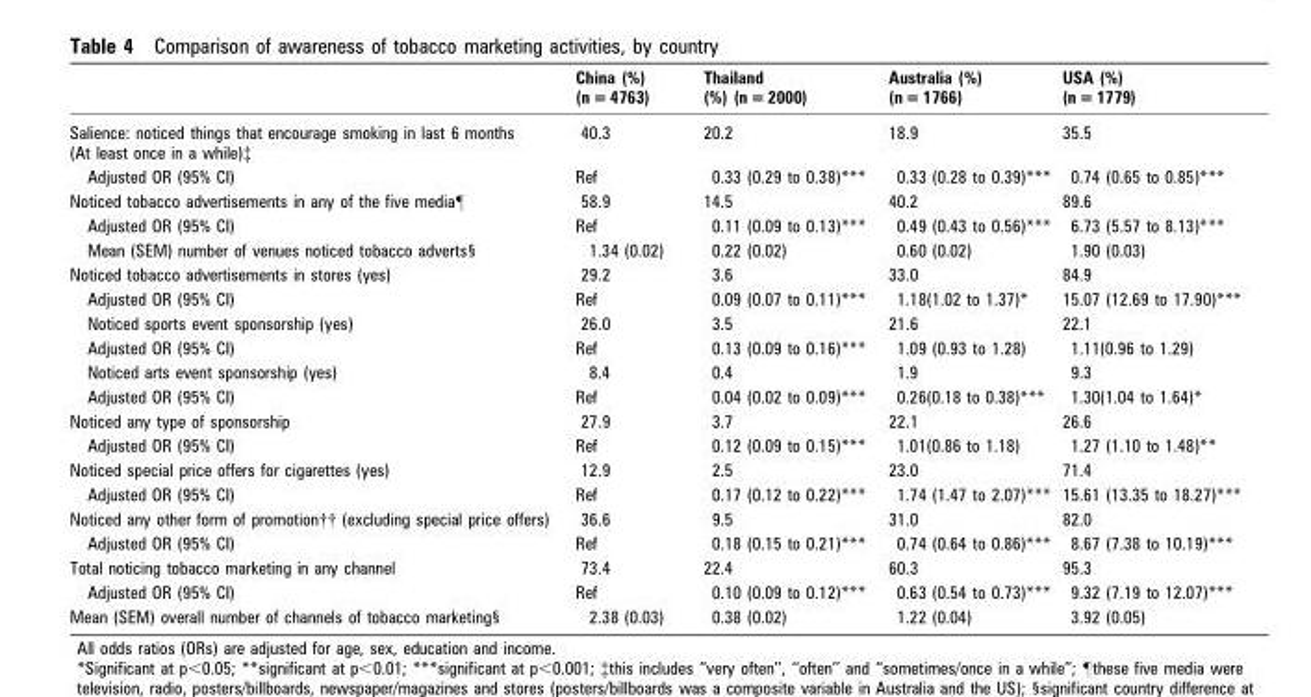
<table><thead><tr><td></td><td>China (%) (n = 4763)</td><td>Thailand (%) (n = 2000)</td><td>Australia (%) (n = 1766)</td><td>USA (%) (n = 1779)</td></tr></thead><tbody><tr><td>Salience: noticed things that encourage smoking in last 6 months (At least once in a while)‡</td><td>40.3</td><td>20.2</td><td>18.9</td><td>35.5</td></tr><tr><td>Adjusted OR (95% CI)</td><td>Ref</td><td>0.33 (0.29 to 0.38)***</td><td>0.33 (0.28 to 0.39)***</td><td>0.74 (0.65 to 0.85)***</td></tr><tr><td>Noticed tobacco advertisements in any of the five media¶</td><td>58.9</td><td>14.5</td><td>40.2</td><td>89.6</td></tr><tr><td>Adjusted OR (95% CI)</td><td>Ref</td><td>0.11 (0.09 to 0.13)***</td><td>0.49 (0.43 to 0.56)***</td><td>6.73 (5.57 to 8.13)***</td></tr><tr><td>Mean (SEM) number of venues noticed tobacco adverts§</td><td>1.34 (0.02)</td><td>0.22 (0.02)</td><td>0.60 (0.02)</td><td>1.90 (0.03)</td></tr><tr><td>Noticed tobacco advertisements in stores (yes)</td><td>29.2</td><td>3.6</td><td>33.0</td><td>84.9</td></tr><tr><td>Adjusted OR (95% CI)</td><td>Ref</td><td>0.09 (0.07 to 0.11)***</td><td>1.18(1.02 to 1.37)*</td><td>15.07 (12.69 to 17.90)***</td></tr><tr><td>Noticed sports event sponsorship (yes)</td><td>26.0</td><td>3.5</td><td>21.6</td><td>22.1</td></tr><tr><td>Adjusted OR (95% CI)</td><td>Ref</td><td>0.13 (0.09 to 0.16)***</td><td>1.09 (0.93 to 1.28)</td><td>1.11(0.96 to 1.29)</td></tr><tr><td>Noticed arts event sponsorship (yes)</td><td>8.4</td><td>0.4</td><td>1.9</td><td>9.3</td></tr><tr><td>Adjusted OR (95% CI)</td><td>Ref</td><td>0.04 (0.02 to 0.09)***</td><td>0.26(0.18 to 0.38)***</td><td>1.30(1.04 to 1.64)*</td></tr><tr><td>Noticed any type of sponsorship</td><td>27.9</td><td>3.7</td><td>22.1</td><td>26.6</td></tr><tr><td>Adjusted OR (95% CI)</td><td>Ref</td><td>0.12 (0.09 to 0.15)***</td><td>1.01(0.86 to 1.18)</td><td>1.27 (1.10 to 1.48)**</td></tr><tr><td>Noticed special price offers for cigarettes (yes)</td><td>12.9</td><td>2.5</td><td>23.0</td><td>71.4</td></tr><tr><td>Adjusted OR (95% CI)</td><td>Ref</td><td>0.17 (0.12 to 0.22)***</td><td>1.74 (1.47 to 2.07)***</td><td>15.61 (13.35 to 18.27)***</td></tr><tr><td>Noticed any other form of promotion†† (excluding special price offers)</td><td>36.6</td><td>9.5</td><td>31.0</td><td>82.0</td></tr><tr><td>Adjusted OR (95% CI)</td><td>Ref</td><td>0.18 (0.15 to 0.21)***</td><td>0.74 (0.64 to 0.86)***</td><td>8.67 (7.38 to 10.19)***</td></tr><tr><td>Total noticing tobacco marketing in any channel</td><td>73.4</td><td>22.4</td><td>60.3</td><td>95.3</td></tr><tr><td>Adjusted OR (95% CI)</td><td>Ref</td><td>0.10 (0.09 to 0.12)***</td><td>0.63 (0.54 to 0.73)***</td><td>9.32 (7.19 to 12.07)***</td></tr><tr><td>Mean (SEM) overall number of channels of tobacco marketing§</td><td>2.38 (0.03)</td><td>0.38 (0.02)</td><td>1.22 (0.04)</td><td>3.92 (0.05)</td></tr></tbody></table>